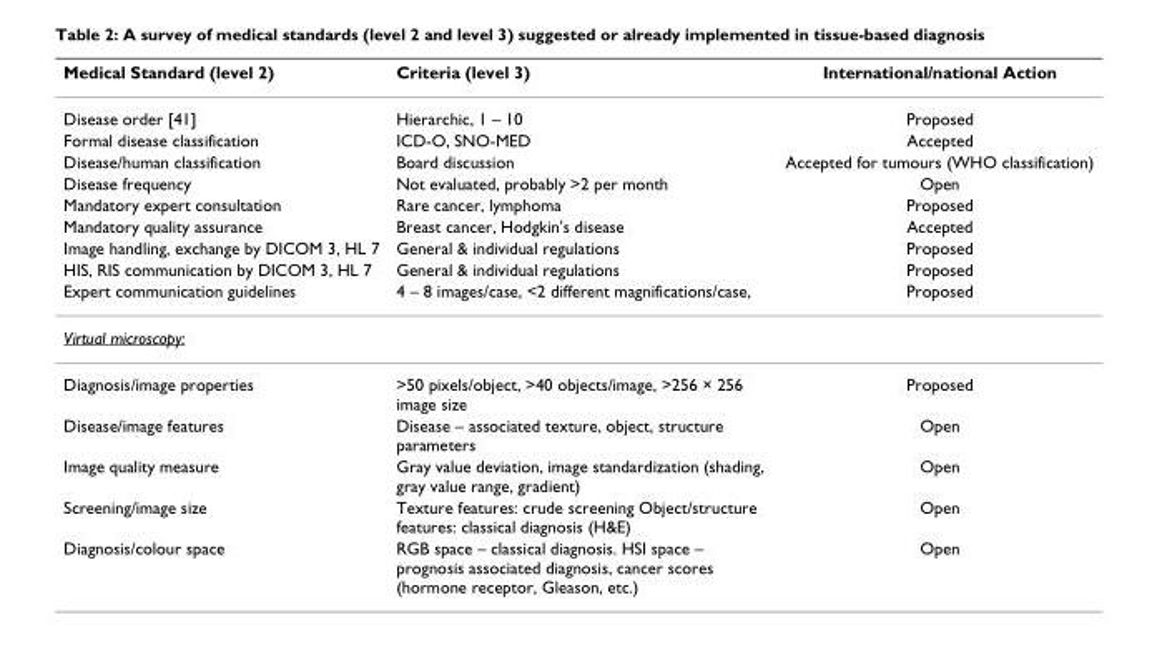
<table><thead><tr><td>Medical Standard (level 2)</td><td>Criteria (level 3)</td><td>International/national Action</td></tr></thead><tbody><tr><td>Disease order [41]</td><td>Hierarchic, 1 – 10</td><td>Proposed</td></tr><tr><td>Formal disease classification</td><td>ICD-O, SNO-MED</td><td>Accepted</td></tr><tr><td>Disease/human classification</td><td>Board discussion</td><td>Accepted for tumours (WHO classification)</td></tr><tr><td>Disease frequency</td><td>Not evaluated, probably &gt;2 per month</td><td>Open</td></tr><tr><td>Mandatory expert consultation</td><td>Rare cancer, lymphoma</td><td>Proposed</td></tr><tr><td>Mandatory quality assurance</td><td>Breast cancer, Hodgkin&#x27;s disease</td><td>Accepted</td></tr><tr><td>Image handling, exchange by DICOM 3, HL 7</td><td>General &amp; individual regulations</td><td>Proposed</td></tr><tr><td>HIS, RIS communication by DICOM 3, HL 7</td><td>General &amp; individual regulations</td><td>Proposed</td></tr><tr><td>Expert communication guidelines</td><td>4 – 8 images/case, &lt;2 different magnifications/case,</td><td>Proposed</td></tr><tr><td colspan="3">Virtual microscopy:</td></tr><tr><td>Diagnosis/image properties</td><td>&gt;50 pixels/object, &gt;40 objects/image, &gt;256 × 256 image size</td><td>Proposed</td></tr><tr><td>Disease/image features</td><td>Disease – associated texture, object, structure parameters</td><td>Open</td></tr><tr><td>Image quality measure</td><td>Gray value deviation, image standardization (shading, gray value range, gradient)</td><td>Open</td></tr><tr><td>Screening/image size</td><td>Texture features: crude screening Object/structure features: classical diagnosis (H&amp;E)</td><td>Open</td></tr><tr><td>Diagnosis/colour space</td><td>RGB space – classical diagnosis. HSI space – prognosis associated diagnosis, cancer scores (hormone receptor, Gleason, etc.)</td><td>Open</td></tr></tbody></table>